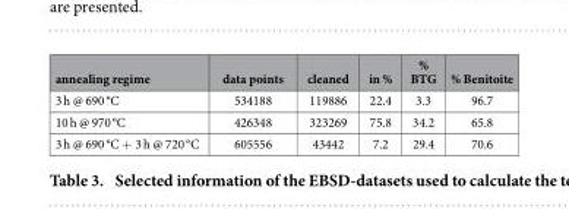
<table><thead><tr><td>annealing regime</td><td>data points</td><td>cleaned</td><td>in %</td><td>% BTG</td><td>% Benitoite</td></tr></thead><tbody><tr><td>3 h @ 690 °C</td><td>534188</td><td>119886</td><td>22.4</td><td>3.3</td><td>96.7</td></tr><tr><td>10 h @ 970 °C</td><td>426348</td><td>323269</td><td>75.8</td><td>34.2</td><td>65.8</td></tr><tr><td>3 h @ 690 °C + 3 h @ 720 °C</td><td>605556</td><td>43442</td><td>7.2</td><td>29.4</td><td>70.6</td></tr></tbody></table>